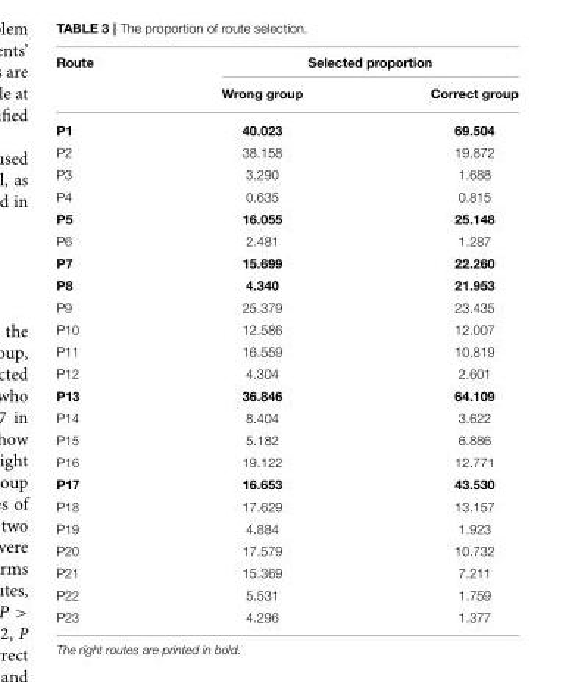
<table><thead><tr><td rowspan="2">Route</td><td colspan="2">Selected proportion</td></tr><tr><td>Wrong group</td><td>Correct group</td></tr></thead><tbody><tr><td>P1</td><td>40.023</td><td>69.504</td></tr><tr><td>P2</td><td>38.158</td><td>19.872</td></tr><tr><td>P3</td><td>3.290</td><td>1.688</td></tr><tr><td>P4</td><td>0.635</td><td>0.815</td></tr><tr><td>P5</td><td>16.055</td><td>25.148</td></tr><tr><td>P6</td><td>2.481</td><td>1.287</td></tr><tr><td>P7</td><td>15.699</td><td>22.260</td></tr><tr><td>P8</td><td>4.340</td><td>21.953</td></tr><tr><td>P9</td><td>25.379</td><td>23.435</td></tr><tr><td>P10</td><td>12.586</td><td>12.007</td></tr><tr><td>P11</td><td>16.559</td><td>10.819</td></tr><tr><td>P12</td><td>4.304</td><td>2.601</td></tr><tr><td>P13</td><td>36.846</td><td>64.109</td></tr><tr><td>P14</td><td>8.404</td><td>3.622</td></tr><tr><td>P15</td><td>5.182</td><td>6.886</td></tr><tr><td>P16</td><td>19.122</td><td>12.771</td></tr><tr><td>P17</td><td>16.653</td><td>43.530</td></tr><tr><td>P18</td><td>17.629</td><td>13.157</td></tr><tr><td>P19</td><td>4.884</td><td>1.923</td></tr><tr><td>P20</td><td>17.579</td><td>10.732</td></tr><tr><td>P21</td><td>15.369</td><td>7.211</td></tr><tr><td>P22</td><td>5.531</td><td>1.759</td></tr><tr><td>P23</td><td>4.296</td><td>1.377</td></tr></tbody></table>